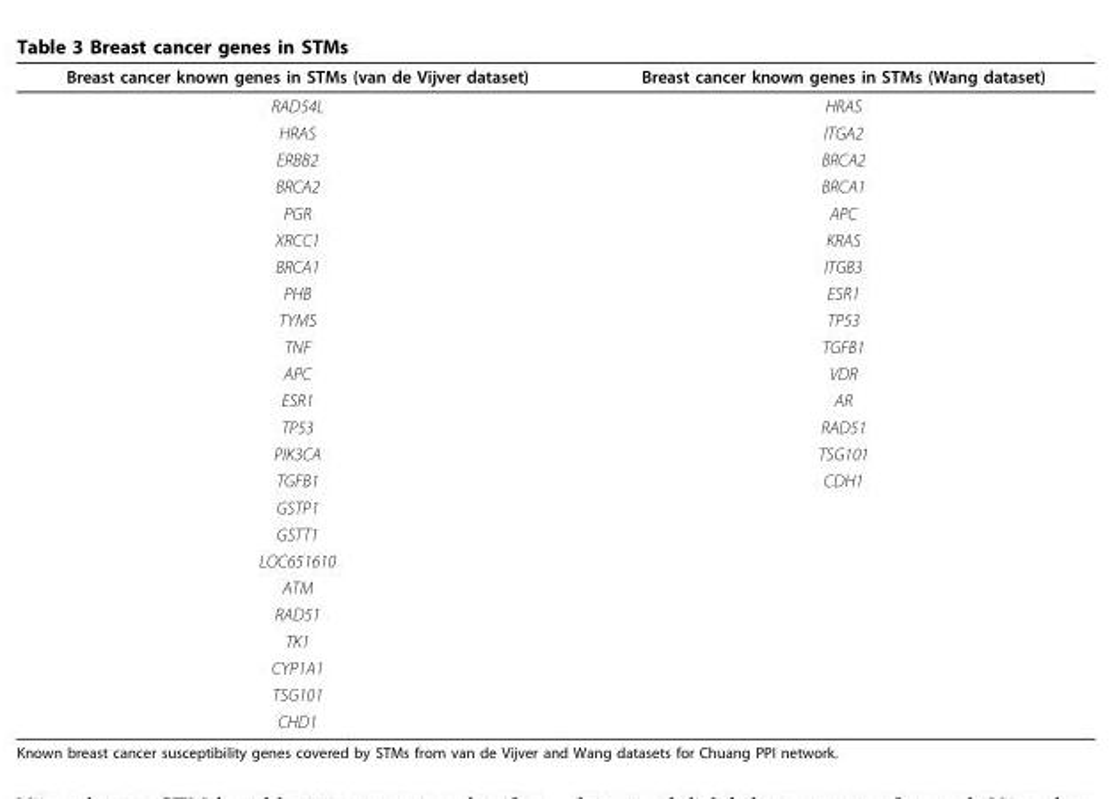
<table><thead><tr><td>Breast cancer known genes in STMs (van de Vijver dataset)</td><td>Breast cancer known genes in STMs (Wang dataset)</td></tr></thead><tbody><tr><td>RAD54L</td><td>HRAS</td></tr><tr><td>HRAS</td><td>ITGA2</td></tr><tr><td>ERBB2</td><td>BRCA2</td></tr><tr><td>BRCA2</td><td>BRCA1</td></tr><tr><td>PGR</td><td>APC</td></tr><tr><td>XRCC1</td><td>KRAS</td></tr><tr><td>BRCA1</td><td>ITGB3</td></tr><tr><td>PHB</td><td>ESR1</td></tr><tr><td>TYMS</td><td>TP53</td></tr><tr><td>TNF</td><td>TGFB1</td></tr><tr><td>APC</td><td>VDR</td></tr><tr><td>ESR1</td><td>AR</td></tr><tr><td>TP53</td><td>RAD51</td></tr><tr><td>PIK3CA</td><td>TSG101</td></tr><tr><td>TGFB1</td><td>CDH1</td></tr><tr><td colspan="2">GSTP1</td></tr><tr><td colspan="2">GSTT1</td></tr><tr><td colspan="2">LOC651610</td></tr><tr><td colspan="2">ATM</td></tr><tr><td colspan="2">RAD51</td></tr><tr><td colspan="2">TK1</td></tr><tr><td colspan="2">CYP1A1</td></tr><tr><td colspan="2">TSG101</td></tr><tr><td>CHD1</td><td></td></tr></tbody></table>